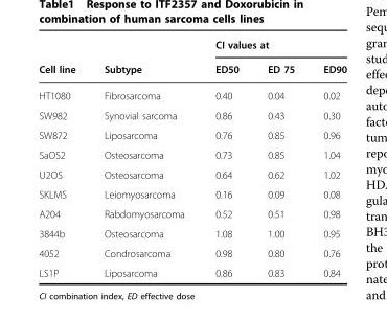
<table><thead><tr><td rowspan="2">Cell line</td><td rowspan="2">Subtype</td><td colspan="3">CI values at</td></tr><tr><td>ED50</td><td>ED 75</td><td>ED90</td></tr></thead><tbody><tr><td>HT1080</td><td>Fibrosarcoma</td><td>0.40</td><td>0.04</td><td>0.02</td></tr><tr><td>SW982</td><td>Synovial sarcoma</td><td>0.86</td><td>0.43</td><td>0.30</td></tr><tr><td>SW872</td><td>Liposarcoma</td><td>0.76</td><td>0.85</td><td>0.96</td></tr><tr><td>SaOS2</td><td>Osteosarcoma</td><td>0.73</td><td>0.85</td><td>1.04</td></tr><tr><td>U2OS</td><td>Osteosarcoma</td><td>0.64</td><td>0.62</td><td>1.02</td></tr><tr><td>SKLMS</td><td>Leiomyosarcoma</td><td>0.16</td><td>0.09</td><td>0.08</td></tr><tr><td>A204</td><td>Rabdomyosarcoma</td><td>0.52</td><td>0.51</td><td>0.98</td></tr><tr><td>3844b</td><td>Osteosarcoma</td><td>1.08</td><td>1.00</td><td>0.95</td></tr><tr><td>4052</td><td>Condrosarcoma</td><td>0.98</td><td>0.80</td><td>0.76</td></tr><tr><td>LS1P</td><td>Liposarcoma</td><td>0.86</td><td>0.83</td><td>0.84</td></tr></tbody></table>